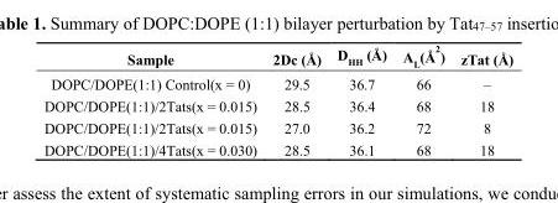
<table><thead><tr><td>Sample</td><td>2Dc (Å)</td><td>D<sub>HH</sub> (Å)</td><td>A<sub>L</sub>(Å <sup>2</sup>)</td><td>zTat (Å)</td></tr></thead><tbody><tr><td>DOPC/DOPE(1:1) Control(x = 0)</td><td>29.5</td><td>36.7</td><td>66</td><td>–</td></tr><tr><td>DOPC/DOPE(1:1)/2Tats(x = 0.015)</td><td>28.5</td><td>36.4</td><td>68</td><td>18</td></tr><tr><td>DOPC/DOPE(1:1)/2Tats(x = 0.015)</td><td>27.0</td><td>36.2</td><td>72</td><td>8</td></tr><tr><td>DOPC/DOPE(1:1)/4Tats(x = 0.030)</td><td>28.5</td><td>36.1</td><td>68</td><td>18</td></tr></tbody></table>